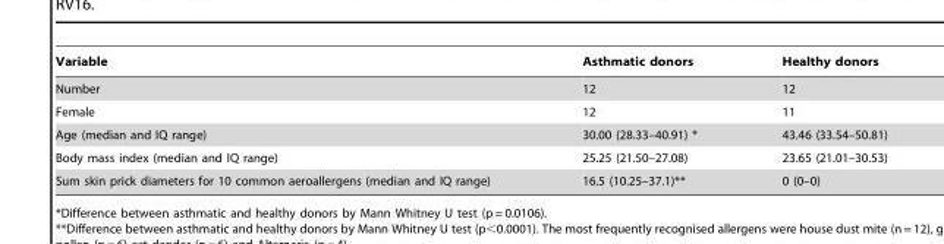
<table><thead><tr><td>Variable</td><td>Asthmatic donors</td><td>Healthy donors</td></tr></thead><tbody><tr><td>Number</td><td>12</td><td>12</td></tr><tr><td>Female</td><td>12</td><td>11</td></tr><tr><td>Age (median and IQ range)</td><td>30.00 (28.33–40.91) *</td><td>43.46 (33.54–50.81)</td></tr><tr><td>Body mass index (median and IQ range)</td><td>25.25 (21.50–27.08)</td><td>23.65 (21.01–30.53)</td></tr><tr><td>Sum skin prick diameters for 10 common aeroallergens (median and IQ range)</td><td>16.5 (10.25–37.1)**</td><td>0 (0–0)</td></tr></tbody></table>